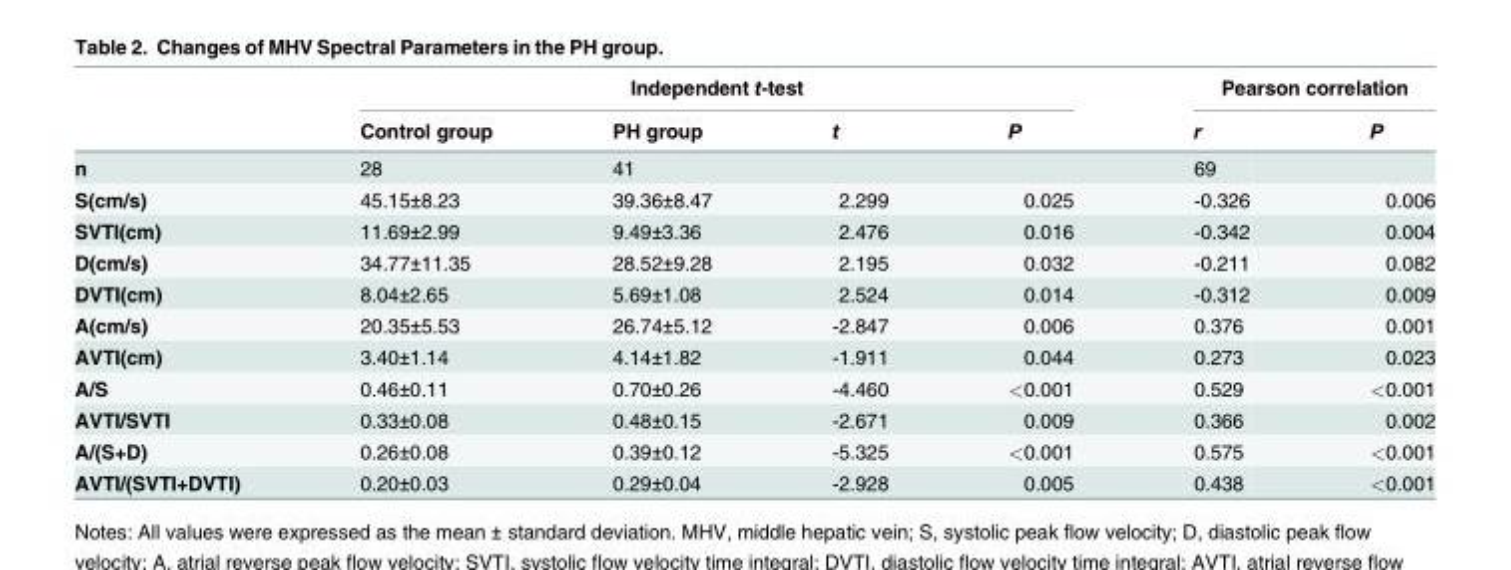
<table><thead><tr><td rowspan="2"></td><td colspan="4">Independent t-test</td><td colspan="2">Pearson correlation</td></tr><tr><td>Control group</td><td>PH group</td><td>t</td><td>P</td><td>r</td><td>P</td></tr></thead><tbody><tr><td>n</td><td>28</td><td>41</td><td></td><td></td><td>69</td><td></td></tr><tr><td>S(cm/s)</td><td>45.15±8.23</td><td>39.36±8.47</td><td>2.299</td><td>0.025</td><td>-0.326</td><td>0.006</td></tr><tr><td>SVTI(cm)</td><td>11.69±2.99</td><td>9.49±3.36</td><td>2.476</td><td>0.016</td><td>-0.342</td><td>0.004</td></tr><tr><td>D(cm/s)</td><td>34.77±11.35</td><td>28.52±9.28</td><td>2.195</td><td>0.032</td><td>-0.211</td><td>0.082</td></tr><tr><td>DVTI(cm)</td><td>8.04±2.65</td><td>5.69±1.08</td><td>2.524</td><td>0.014</td><td>-0.312</td><td>0.009</td></tr><tr><td>A(cm/s)</td><td>20.35±5.53</td><td>26.74±5.12</td><td>-2.847</td><td>0.006</td><td>0.376</td><td>0.001</td></tr><tr><td>AVTI(cm)</td><td>3.40±1.14</td><td>4.14±1.82</td><td>-1.911</td><td>0.044</td><td>0.273</td><td>0.023</td></tr><tr><td>A/S</td><td>0.46±0.11</td><td>0.70±0.26</td><td>-4.460</td><td>&lt;0.001</td><td>0.529</td><td>&lt;0.001</td></tr><tr><td>AVTI/SVTI</td><td>0.33±0.08</td><td>0.48±0.15</td><td>-2.671</td><td>0.009</td><td>0.366</td><td>0.002</td></tr><tr><td>A/(S+D)</td><td>0.26±0.08</td><td>0.39±0.12</td><td>-5.325</td><td>&lt;0.001</td><td>0.575</td><td>&lt;0.001</td></tr><tr><td>AVTI/(SVTI+DVTI)</td><td>0.20±0.03</td><td>0.29±0.04</td><td>-2.928</td><td>0.005</td><td>0.438</td><td>&lt;0.001</td></tr></tbody></table>